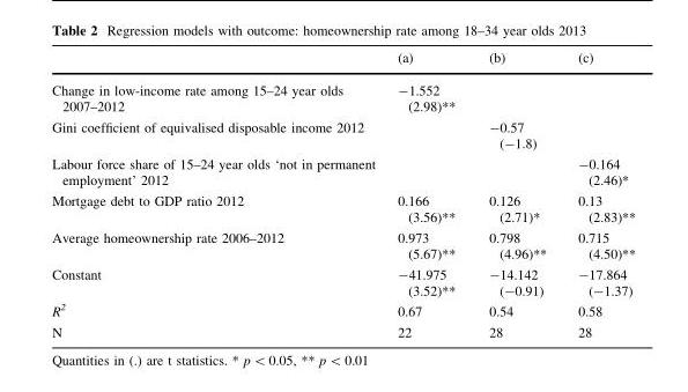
<table><thead><tr><td></td><td>(a)</td><td>(b)</td><td>(c)</td></tr></thead><tbody><tr><td>Change in low-income rate among 15–24 year olds 2007–2012</td><td>-1.552 (2.98)**</td><td></td><td></td></tr><tr><td>Gini coefficient of equivalised disposable income 2012</td><td></td><td>-0.57 (-1.8)</td><td></td></tr><tr><td>Labour force share of 15–24 year olds ‘not in permanent employment’ 2012</td><td></td><td></td><td>-0.164 (2.46)*</td></tr><tr><td>Mortgage debt to GDP ratio 2012</td><td>0.166 (3.56)**</td><td>0.126 (2.71)*</td><td>0.13 (2.83)**</td></tr><tr><td>Average homeownership rate 2006–2012</td><td>0.973 (5.67)**</td><td>0.798 (4.96)**</td><td>0.715 (4.50)**</td></tr><tr><td>Constant</td><td>-41.975 (3.52)**</td><td>-14.142 (-0.91)</td><td>-17.864 (-1.37)</td></tr><tr><td>R<sup>2</sup></td><td>0.67</td><td>0.54</td><td>0.58</td></tr><tr><td>N</td><td>22</td><td>28</td><td>28</td></tr></tbody></table>